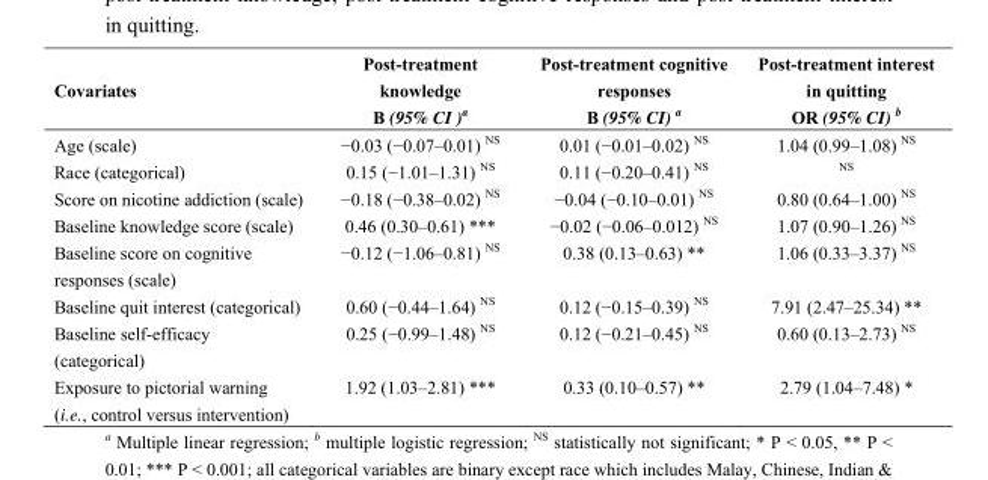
<table><thead><tr><td>Covariates</td><td>Post-treatment knowledge B (95% CI )<sup>a</sup></td><td>Post-treatment cognitive responses B (95% CI) <sup>a</sup></td><td>Post-treatment interest in quitting OR (95% CI) <sup>b</sup></td></tr></thead><tbody><tr><td>Age (scale)</td><td>−0.03 (−0.07–0.01) NS</td><td>0.01 (−0.01–0.02) NS</td><td>1.04 (0.99–1.08) NS</td></tr><tr><td>Race (categorical)</td><td>0.15 (−1.01–1.31) NS</td><td>0.11 (−0.20–0.41) NS</td><td>NS</td></tr><tr><td>Score on nicotine addiction (scale)</td><td>−0.18 (−0.38–0.02) NS</td><td>−0.04 (−0.10–0.01) NS</td><td>0.80 (0.64–1.00) NS</td></tr><tr><td>Baseline knowledge score (scale)</td><td>0.46 (0.30–0.61) ***</td><td>−0.02 (−0.06–0.012) NS</td><td>1.07 (0.90–1.26) NS</td></tr><tr><td>Baseline score on cognitive responses (scale)</td><td>−0.12 (−1.06–0.81) NS</td><td>0.38 (0.13–0.63) **</td><td>1.06 (0.33–3.37) NS</td></tr><tr><td>Baseline quit interest (categorical)</td><td>0.60 (−0.44–1.64) NS</td><td>0.12 (−0.15–0.39) NS</td><td>7.91 (2.47–25.34) **</td></tr><tr><td>Baseline self-efficacy (categorical)</td><td>0.25 (−0.99–1.48) NS</td><td>0.12 (−0.21–0.45) NS</td><td>0.60 (0.13–2.73) NS</td></tr><tr><td>Exposure to pictorial warning (i.e., control versus intervention)</td><td>1.92 (1.03–2.81) ***</td><td>0.33 (0.10–0.57) **</td><td>2.79 (1.04–7.48) *</td></tr></tbody></table>